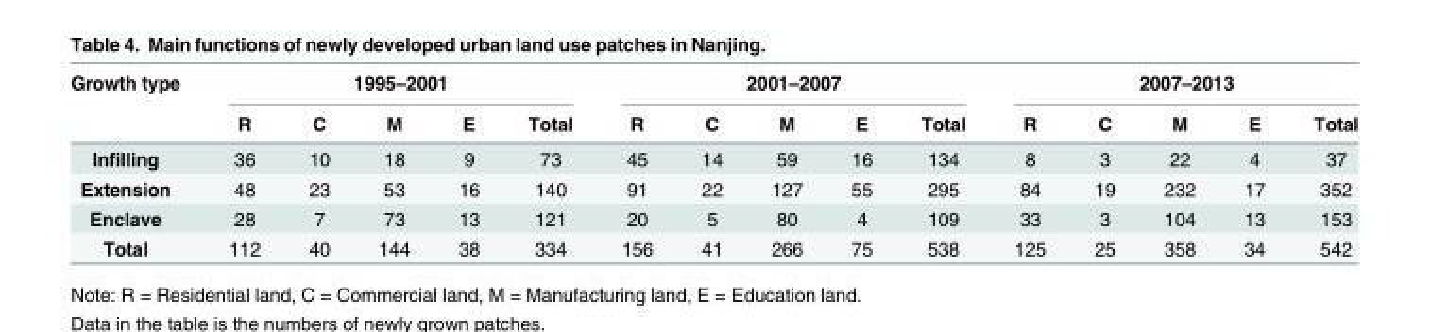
<table><thead><tr><td rowspan="2">Growth type</td><td colspan="5">1995–2001</td><td colspan="5">2001–2007</td><td colspan="5">2007–2013</td></tr><tr><td>R</td><td>C</td><td>M</td><td>E</td><td>Total</td><td>R</td><td>C</td><td>M</td><td>E</td><td>Total</td><td>R</td><td>C</td><td>M</td><td>E</td><td>Total</td></tr></thead><tbody><tr><td>Infilling</td><td>36</td><td>10</td><td>18</td><td>9</td><td>73</td><td>45</td><td>14</td><td>59</td><td>16</td><td>134</td><td>8</td><td>3</td><td>22</td><td>4</td><td>37</td></tr><tr><td>Extension</td><td>48</td><td>23</td><td>53</td><td>16</td><td>140</td><td>91</td><td>22</td><td>127</td><td>55</td><td>295</td><td>84</td><td>19</td><td>232</td><td>17</td><td>352</td></tr><tr><td>Enclave</td><td>28</td><td>7</td><td>73</td><td>13</td><td>121</td><td>20</td><td>5</td><td>80</td><td>4</td><td>109</td><td>33</td><td>3</td><td>104</td><td>13</td><td>153</td></tr><tr><td>Total</td><td>112</td><td>40</td><td>144</td><td>38</td><td>334</td><td>156</td><td>41</td><td>266</td><td>75</td><td>538</td><td>125</td><td>25</td><td>358</td><td>34</td><td>542</td></tr></tbody></table>